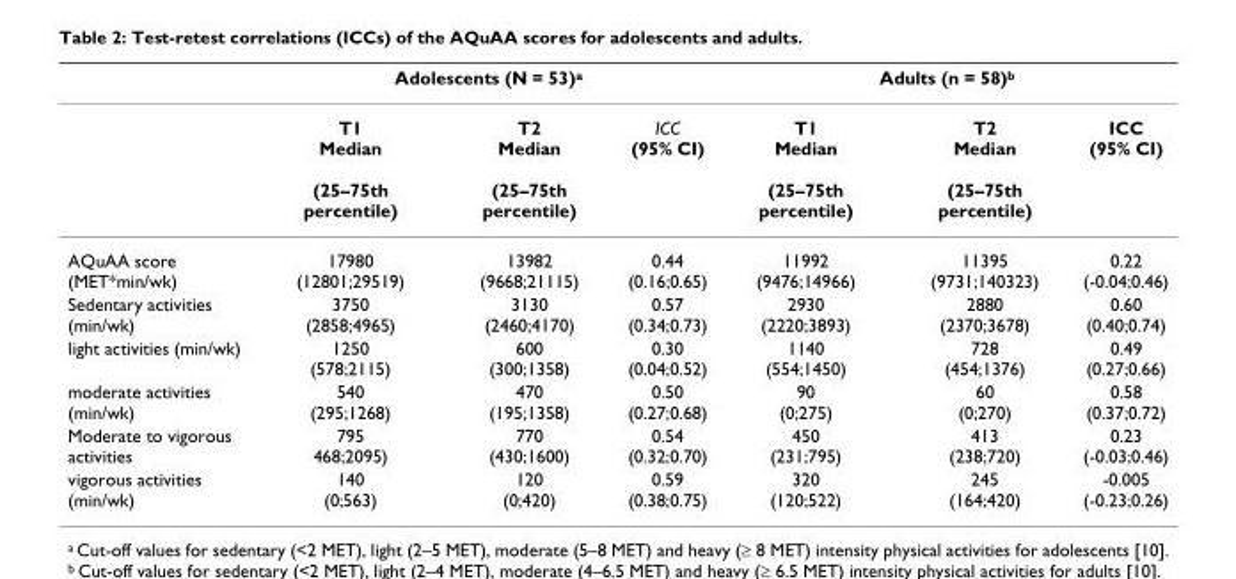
<table><thead><tr><td rowspan="2"></td><td colspan="3">Adolescents (N = 53)<sup>a</sup></td><td colspan="3">Adults (n = 58)<sup>b</sup></td></tr><tr><td>T1 Median (25–75th percentile)</td><td>T2 Median (25–75th percentile)</td><td>ICC (95% CI)</td><td>T1 Median (25–75th percentile)</td><td>T2 Median (25–75th percentile)</td><td>ICC (95% CI)</td></tr></thead><tbody><tr><td>AQuAA score (MET*min/wk)</td><td>17980 (12801;29519)</td><td>13982 (9668;21115)</td><td>0.44 (0.16;0.65)</td><td>11992 (9476;14966)</td><td>11395 (9731;140323)</td><td>0.22 (-0.04;0.46)</td></tr><tr><td>Sedentary activities (min/wk)</td><td>3750 (2858;4965)</td><td>3130 (2460;4170)</td><td>0.57 (0.34;0.73)</td><td>2930 (2220;3893)</td><td>2880 (2370;3678)</td><td>0.60 (0.40;0.74)</td></tr><tr><td>light activities (min/wk)</td><td>1250 (578;2115)</td><td>600 (300;1358)</td><td>0.30 (0.04;0.52)</td><td>1140 (554;1450)</td><td>728 (454;1376)</td><td>0.49 (0.27;0.66)</td></tr><tr><td>moderate activities (min/wk)</td><td>540 (295;1268)</td><td>470 (195;1358)</td><td>0.50 (0.27;0.68)</td><td>90 (0;275)</td><td>60 (0;270)</td><td>0.58 (0.37;0.72)</td></tr><tr><td>Moderate to vigorous activities</td><td>795 468;2095)</td><td>770 (430;1600)</td><td>0.54 (0.32;0.70)</td><td>450 (231;795)</td><td>413 (238;720)</td><td>0.23 (-0.03;0.46)</td></tr><tr><td>vigorous activities (min/wk)</td><td>140 (0;563)</td><td>120 (0;420)</td><td>0.59 (0.38;0.75)</td><td>320 (120;522)</td><td>245 (164;420)</td><td>-0.005 (-0.23;0.26)</td></tr></tbody></table>